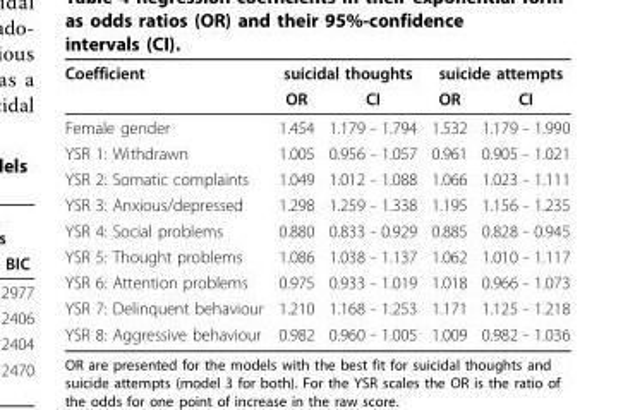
<table><thead><tr><td rowspan="2">Coefficient</td><td colspan="2">suicidal thoughts</td><td colspan="2">suicide attempts</td></tr><tr><td>OR</td><td>CI</td><td>OR</td><td>CI</td></tr></thead><tbody><tr><td>Female gender</td><td>1.454</td><td>1.179 - 1.794</td><td>1.532</td><td>1.179 - 1.990</td></tr><tr><td>YSR 1: Withdrawn</td><td>1.005</td><td>0.956 - 1.057</td><td>0.961</td><td>0.905 - 1.021</td></tr><tr><td>YSR 2: Somatic complaints</td><td>1.049</td><td>1.012 - 1.088</td><td>1.066</td><td>1.023 - 1.111</td></tr><tr><td>YSR 3: Anxious/depressed</td><td>1.298</td><td>1.259 - 1.338</td><td>1.195</td><td>1.156 - 1.235</td></tr><tr><td>YSR 4: Social problems</td><td>0.880</td><td>0.833 - 0.929</td><td>0.885</td><td>0.828 - 0.945</td></tr><tr><td>YSR 5: Thought problems</td><td>1.086</td><td>1.038 - 1.137</td><td>1.062</td><td>1.010 - 1.117</td></tr><tr><td>YSR 6: Attention problems</td><td>0.975</td><td>0.933 - 1.019</td><td>1.018</td><td>0.966 - 1.073</td></tr><tr><td>YSR 7: Delinquent behaviour</td><td>1.210</td><td>1.168 - 1.253</td><td>1.171</td><td>1.125 - 1.218</td></tr><tr><td>YSR 8: Aggressive behaviour</td><td>0.982</td><td>0.960 - 1.005</td><td>1.009</td><td>0.982 - 1.036</td></tr></tbody></table>